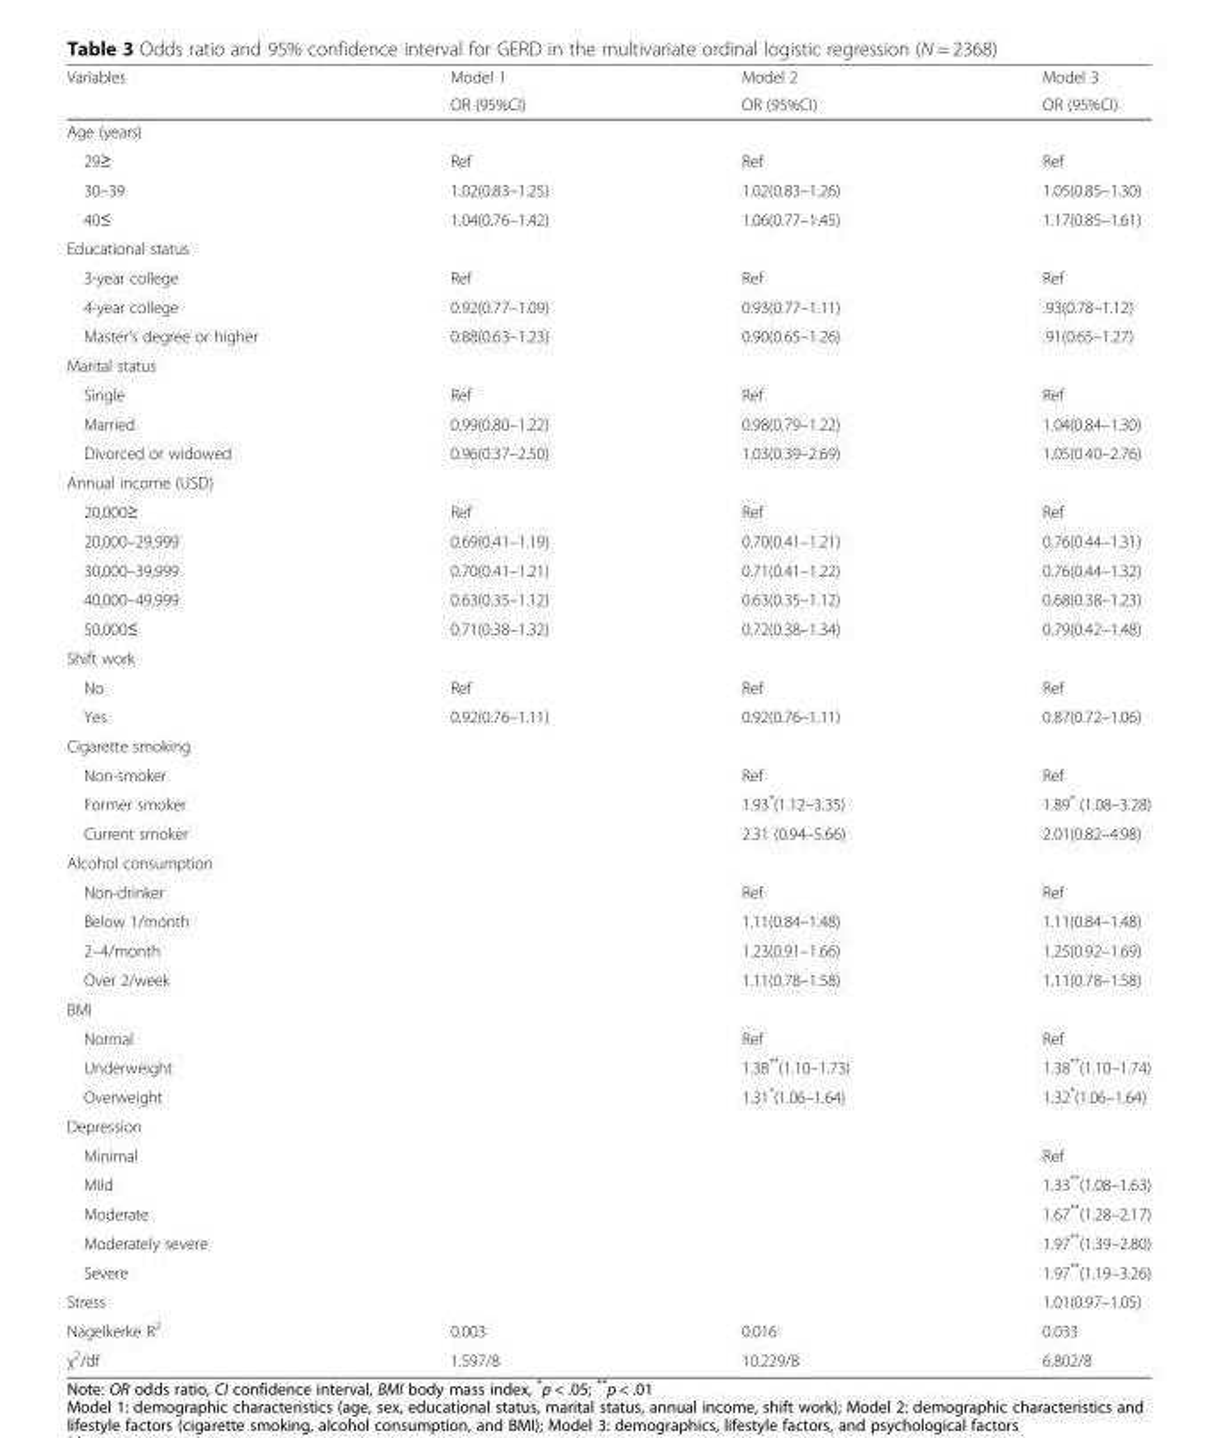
<table><thead><tr><td rowspan="2">Variables</td><td rowspan="2">Model 1 OR (95%CI)</td><td rowspan="2">Model 2 OR (95%CI)</td><td rowspan="2">Model 3 OR (95%CI)</td></tr><tr></tr></thead><tbody><tr><td colspan="4">Age (years)</td></tr><tr><td>29≥</td><td>Ref</td><td>Ref</td><td>Ref</td></tr><tr><td>30–39</td><td>1.02(0.83–1.25)</td><td>1.02(0.83–1.26)</td><td>1.05(0.85–1.30)</td></tr><tr><td>40≤</td><td>1.04(0.76–1.42)</td><td>1.06(0.77–1.45)</td><td>1.17(0.85–1.61)</td></tr><tr><td colspan="4">Educational status</td></tr><tr><td>3-year college</td><td>Ref</td><td>Ref</td><td>Ref</td></tr><tr><td>4-year college</td><td>0.92(0.77–1.09)</td><td>0.93(0.77–1.11)</td><td>.93(0.78–1.12)</td></tr><tr><td>Master’s degree or higher</td><td>0.88(0.63–1.23)</td><td>0.90(0.65–1.26)</td><td>.91(0.65–1.27)</td></tr><tr><td colspan="4">Marital status</td></tr><tr><td>Single</td><td>Ref</td><td>Ref</td><td>Ref</td></tr><tr><td>Married</td><td>0.99(0.80–1.22)</td><td>0.98(0.79–1.22)</td><td>1.04(0.84–1.30)</td></tr><tr><td>Divorced or widowed</td><td>0.96(0.37–2.50)</td><td>1.03(0.39–2.69)</td><td>1.05(0.40–2.76)</td></tr><tr><td colspan="4">Annual income (USD)</td></tr><tr><td>20,000≥</td><td>Ref</td><td>Ref</td><td>Ref</td></tr><tr><td>20,000–29,999</td><td>0.69(0.41–1.19)</td><td>0.70(0.41–1.21)</td><td>0.76(0.44–1.31)</td></tr><tr><td>30,000–39,999</td><td>0.70(0.41–1.21)</td><td>0.71(0.41–1.22)</td><td>0.76(0.44–1.32)</td></tr><tr><td>40,000–49,999</td><td>0.63(0.35–1.12)</td><td>0.63(0.35–1.12)</td><td>0.68(0.38–1.23)</td></tr><tr><td>50,000≤</td><td>0.71(0.38–1.32)</td><td>0.72(0.38–1.34)</td><td>0.79(0.42–1.48)</td></tr><tr><td colspan="4">Shift work</td></tr><tr><td>No</td><td>Ref</td><td>Ref</td><td>Ref</td></tr><tr><td>Yes</td><td>0.92(0.76–1.11)</td><td>0.92(0.76–1.11)</td><td>0.87(0.72–1.06)</td></tr><tr><td colspan="4">Cigarette smoking</td></tr><tr><td>Non-smoker</td><td></td><td>Ref</td><td>Ref</td></tr><tr><td>Former smoker</td><td></td><td>1.93*(1.12–3.35)</td><td>1.89* (1.08–3.28)</td></tr><tr><td>Current smoker</td><td></td><td>2.31 (0.94–5.66)</td><td>2.01(0.82–4.98)</td></tr><tr><td colspan="4">Alcohol consumption</td></tr><tr><td>Non-drinker</td><td></td><td>Ref</td><td>Ref</td></tr><tr><td>Below 1/month</td><td></td><td>1.11(0.84–1.48)</td><td>1.11(0.84–1.48)</td></tr><tr><td>2–4/month</td><td></td><td>1.23(0.91–1.66)</td><td>1.25(0.92–1.69)</td></tr><tr><td>Over 2/week</td><td></td><td>1.11(0.78–1.58)</td><td>1.11(0.78–1.58)</td></tr><tr><td colspan="4">BMI</td></tr><tr><td>Normal</td><td></td><td>Ref</td><td>Ref</td></tr><tr><td>Underweight</td><td></td><td>1.38**(1.10–1.73)</td><td>1.38**(1.10–1.74)</td></tr><tr><td>Overweight</td><td></td><td>1.31*(1.06–1.64)</td><td>1.32*(1.06–1.64)</td></tr><tr><td colspan="4">Depression</td></tr><tr><td>Minimal</td><td></td><td></td><td>Ref</td></tr><tr><td>Mild</td><td></td><td></td><td>1.33**(1.08–1.63)</td></tr><tr><td>Moderate</td><td></td><td></td><td>1.67**(1.28–2.17)</td></tr><tr><td>Moderately severe</td><td></td><td></td><td>1.97**(1.39–2.80)</td></tr><tr><td>Severe</td><td></td><td></td><td>1.97**(1.19–3.26)</td></tr><tr><td>Stress</td><td></td><td></td><td>1.01(0.97–1.05)</td></tr><tr><td>Nagelkerke R<sup>2</sup></td><td>0.003</td><td>0.016</td><td>0.033</td></tr><tr><td>χ<sup>2</sup>/df</td><td>1.597/8</td><td>10.229/8</td><td>6.802/8</td></tr></tbody></table>